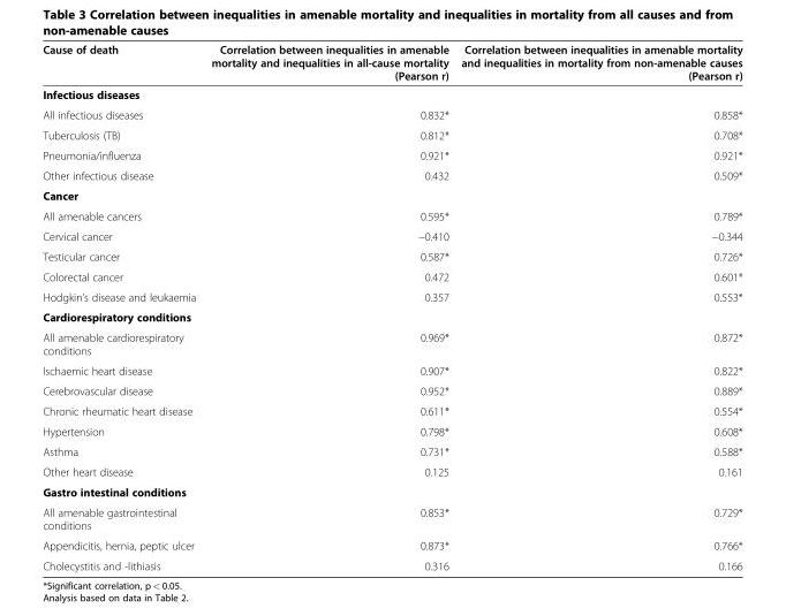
<table><thead><tr><td>Cause of death</td><td>Correlation between inequalities in amenable mortality and inequalities in all-cause mortality (Pearson r)</td><td>Correlation between inequalities in amenable mortality and inequalities in mortality from non-amenable causes (Pearson r)</td></tr></thead><tbody><tr><td colspan="3">Infectious diseases</td></tr><tr><td>All infectious diseases</td><td>0.832*</td><td>0.858*</td></tr><tr><td>Tuberculosis (TB)</td><td>0.812*</td><td>0.708*</td></tr><tr><td>Pneumonia/influenza</td><td>0.921*</td><td>0.921*</td></tr><tr><td>Other infectious disease</td><td>0.432</td><td>0.509*</td></tr><tr><td colspan="3">Cancer</td></tr><tr><td>All amenable cancers</td><td>0.595*</td><td>0.789*</td></tr><tr><td>Cervical cancer</td><td>−0.410</td><td>−0.344</td></tr><tr><td>Testicular cancer</td><td>0.587*</td><td>0.726*</td></tr><tr><td>Colorectal cancer</td><td>0.472</td><td>0.601*</td></tr><tr><td>Hodgkin’s disease and leukaemia</td><td>0.357</td><td>0.553*</td></tr><tr><td colspan="3">Cardiorespiratory conditions</td></tr><tr><td>All amenable cardiorespiratory conditions</td><td>0.969*</td><td>0.872*</td></tr><tr><td>Ischaemic heart disease</td><td>0.907*</td><td>0.822*</td></tr><tr><td>Cerebrovascular disease</td><td>0.952*</td><td>0.889*</td></tr><tr><td>Chronic rheumatic heart disease</td><td>0.611*</td><td>0.554*</td></tr><tr><td>Hypertension</td><td>0.798*</td><td>0.608*</td></tr><tr><td>Asthma</td><td>0.731*</td><td>0.588*</td></tr><tr><td>Other heart disease</td><td>0.125</td><td>0.161</td></tr><tr><td colspan="3">Gastro intestinal conditions</td></tr><tr><td>All amenable gastrointestinal conditions</td><td>0.853*</td><td>0.729*</td></tr><tr><td>Appendicitis, hernia, peptic ulcer</td><td>0.873*</td><td>0.766*</td></tr><tr><td>Cholecystitis and -lithiasis</td><td>0.316</td><td>0.166</td></tr></tbody></table>